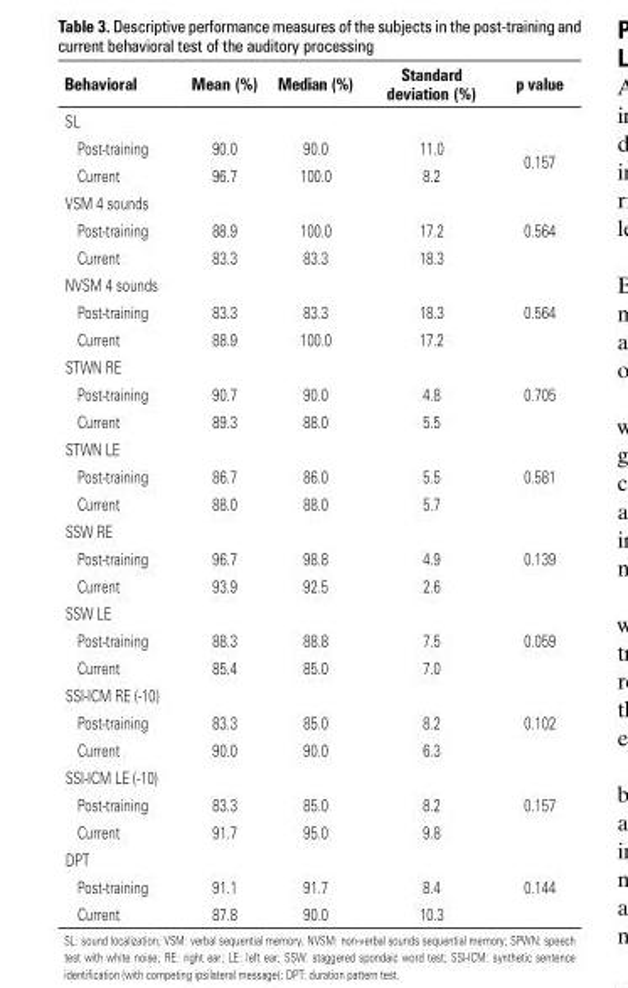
<table><thead><tr><td>Behavioral</td><td>Mean (%)</td><td>Median (%)</td><td>Standard deviation (%)</td><td>p value</td></tr></thead><tbody><tr><td colspan="5">SL</td></tr><tr><td>Post-training</td><td>90.0</td><td>90.0</td><td>11.0</td><td rowspan="2">0.157</td></tr><tr><td>Current</td><td>96.7</td><td>100.0</td><td>8.2</td></tr><tr><td colspan="5">VSM 4 sounds</td></tr><tr><td>Post-training</td><td>88.9</td><td>100.0</td><td>17.2</td><td rowspan="2">0.564</td></tr><tr><td>Current</td><td>83.3</td><td>83.3</td><td>18.3</td></tr><tr><td colspan="5">NVSM 4 sounds</td></tr><tr><td>Post-training</td><td>83.3</td><td>83.3</td><td>18.3</td><td rowspan="2">0.564</td></tr><tr><td>Current</td><td>88.9</td><td>100.0</td><td>17.2</td></tr><tr><td colspan="5">STWN RE</td></tr><tr><td>Post-training</td><td>90.7</td><td>90.0</td><td>4.8</td><td rowspan="2">0.705</td></tr><tr><td>Current</td><td>89.3</td><td>88.0</td><td>5.5</td></tr><tr><td colspan="5">STWN LE</td></tr><tr><td>Post-training</td><td>86.7</td><td>86.0</td><td>5.5</td><td rowspan="2">0.581</td></tr><tr><td>Current</td><td>88.0</td><td>88.0</td><td>5.7</td></tr><tr><td colspan="5">SSW RE</td></tr><tr><td>Post-training</td><td>96.7</td><td>98.8</td><td>4.9</td><td rowspan="2">0.139</td></tr><tr><td>Current</td><td>93.9</td><td>92.5</td><td>2.6</td></tr><tr><td colspan="5">SSW LE</td></tr><tr><td>Post-training</td><td>88.3</td><td>88.8</td><td>7.5</td><td rowspan="2">0.059</td></tr><tr><td>Current</td><td>85.4</td><td>85.0</td><td>7.0</td></tr><tr><td colspan="5">SSI-ICM RE (-10)</td></tr><tr><td>Post-training</td><td>83.3</td><td>85.0</td><td>8.2</td><td rowspan="2">0.102</td></tr><tr><td>Current</td><td>90.0</td><td>90.0</td><td>6.3</td></tr><tr><td colspan="5">SSI-ICM LE (-10)</td></tr><tr><td>Post-training</td><td>83.3</td><td>85.0</td><td>8.2</td><td rowspan="2">0.157</td></tr><tr><td>Current</td><td>91.7</td><td>95.0</td><td>9.8</td></tr><tr><td colspan="5">DPT</td></tr><tr><td>Post-training</td><td>91.1</td><td>91.7</td><td>8.4</td><td rowspan="2">0.144</td></tr><tr><td>Current</td><td>87.8</td><td>90.0</td><td>10.3</td></tr></tbody></table>